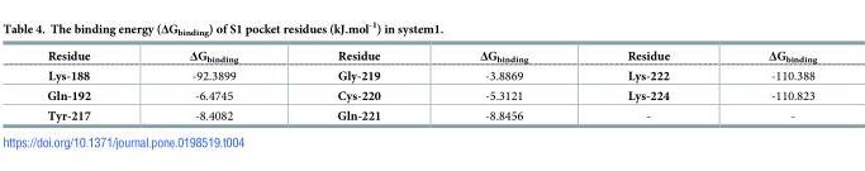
<table><thead><tr><td>Residue</td><td>ΔG<sub>binding</sub></td><td>Residue</td><td>ΔG<sub>binding</sub></td><td>Residue</td><td>ΔG<sub>binding</sub></td></tr></thead><tbody><tr><td>Lys-188</td><td>-92.3899</td><td>Gly-219</td><td>-3.8869</td><td>Lys-222</td><td>-110.388</td></tr><tr><td>Gln-192</td><td>-6.4745</td><td>Cys-220</td><td>-5.3121</td><td>Lys-224</td><td>-110.823</td></tr><tr><td>Tyr-217</td><td>-8.4082</td><td>Gln-221</td><td>-8.8456</td><td>-</td><td>-</td></tr></tbody></table>